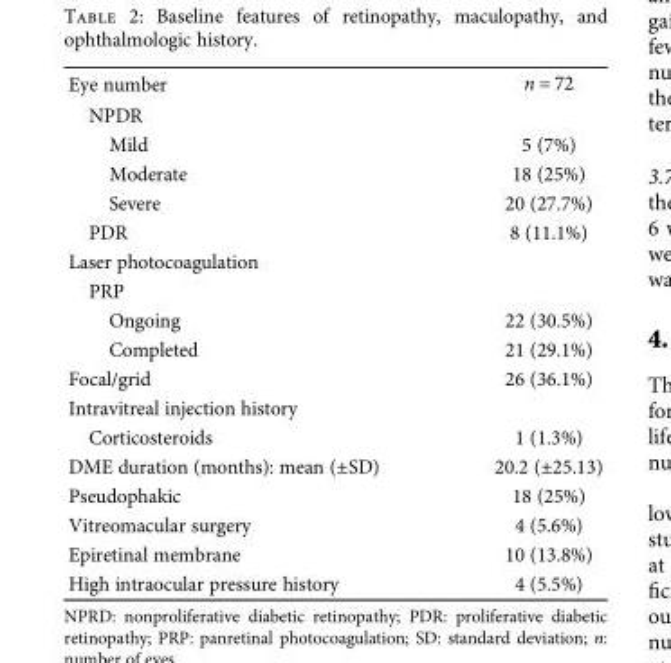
<table><tbody><tr><td>Eye number</td><td>n = 72</td></tr><tr><td colspan="2">NPDR</td></tr><tr><td>Mild</td><td>5 (7%)</td></tr><tr><td>Moderate</td><td>18 (25%)</td></tr><tr><td>Severe</td><td>20 (27.7%)</td></tr><tr><td>PDR</td><td>8 (11.1%)</td></tr><tr><td colspan="2">Laser photocoagulation</td></tr><tr><td colspan="2">PRP</td></tr><tr><td>Ongoing</td><td>22 (30.5%)</td></tr><tr><td>Completed</td><td>21 (29.1%)</td></tr><tr><td>Focal/grid</td><td>26 (36.1%)</td></tr><tr><td colspan="2">Intravitreal injection history</td></tr><tr><td>Corticosteroids</td><td>1 (1.3%)</td></tr><tr><td>DME duration (months): mean (±SD)</td><td>20.2 (±25.13)</td></tr><tr><td>Pseudophakic</td><td>18 (25%)</td></tr><tr><td>Vitreomacular surgery</td><td>4 (5.6%)</td></tr><tr><td>Epiretinal membrane</td><td>10 (13.8%)</td></tr><tr><td>High intraocular pressure history</td><td>4 (5.5%)</td></tr></tbody></table>